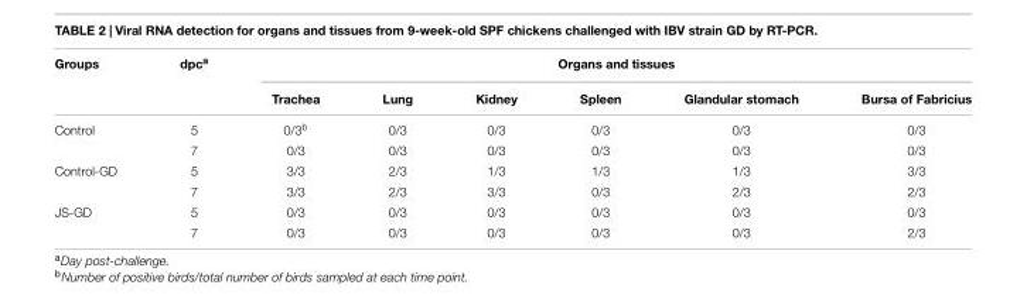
<table><thead><tr><td rowspan="2">Groups</td><td rowspan="2">dpc<sup>a</sup></td><td colspan="6">Organs and tissues</td></tr><tr><td>Trachea</td><td>Lung</td><td>Kidney</td><td>Spleen</td><td>Glandular stomach</td><td>Bursa of Fabricius</td></tr></thead><tbody><tr><td rowspan="2">Control</td><td>5</td><td>0/3<sup>b</sup></td><td>0/3</td><td>0/3</td><td>0/3</td><td>0/3</td><td>0/3</td></tr><tr><td>7</td><td>0/3</td><td>0/3</td><td>0/3</td><td>0/3</td><td>0/3</td><td>0/3</td></tr><tr><td rowspan="2">Control-GD</td><td>5</td><td>3/3</td><td>2/3</td><td>1/3</td><td>1/3</td><td>1/3</td><td>3/3</td></tr><tr><td>7</td><td>3/3</td><td>2/3</td><td>3/3</td><td>0/3</td><td>2/3</td><td>2/3</td></tr><tr><td rowspan="2">JS-GD</td><td>5</td><td>0/3</td><td>0/3</td><td>0/3</td><td>0/3</td><td>0/3</td><td>0/3</td></tr><tr><td>7</td><td>0/3</td><td>0/3</td><td>0/3</td><td>0/3</td><td>0/3</td><td>2/3</td></tr></tbody></table>